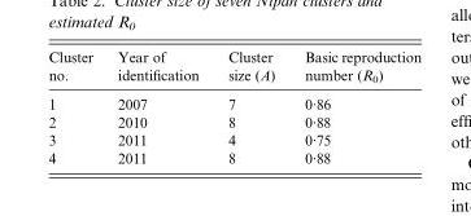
<table><thead><tr><td>Cluster no.</td><td>Year of identification</td><td>Cluster size (A)</td><td>Basic reproduction number (R<sub>0</sub>)</td></tr></thead><tbody><tr><td>1</td><td>2007</td><td>7</td><td>0·86</td></tr><tr><td>2</td><td>2010</td><td>8</td><td>0·88</td></tr><tr><td>3</td><td>2011</td><td>4</td><td>0·75</td></tr><tr><td>4</td><td>2011</td><td>8</td><td>0·88</td></tr></tbody></table>